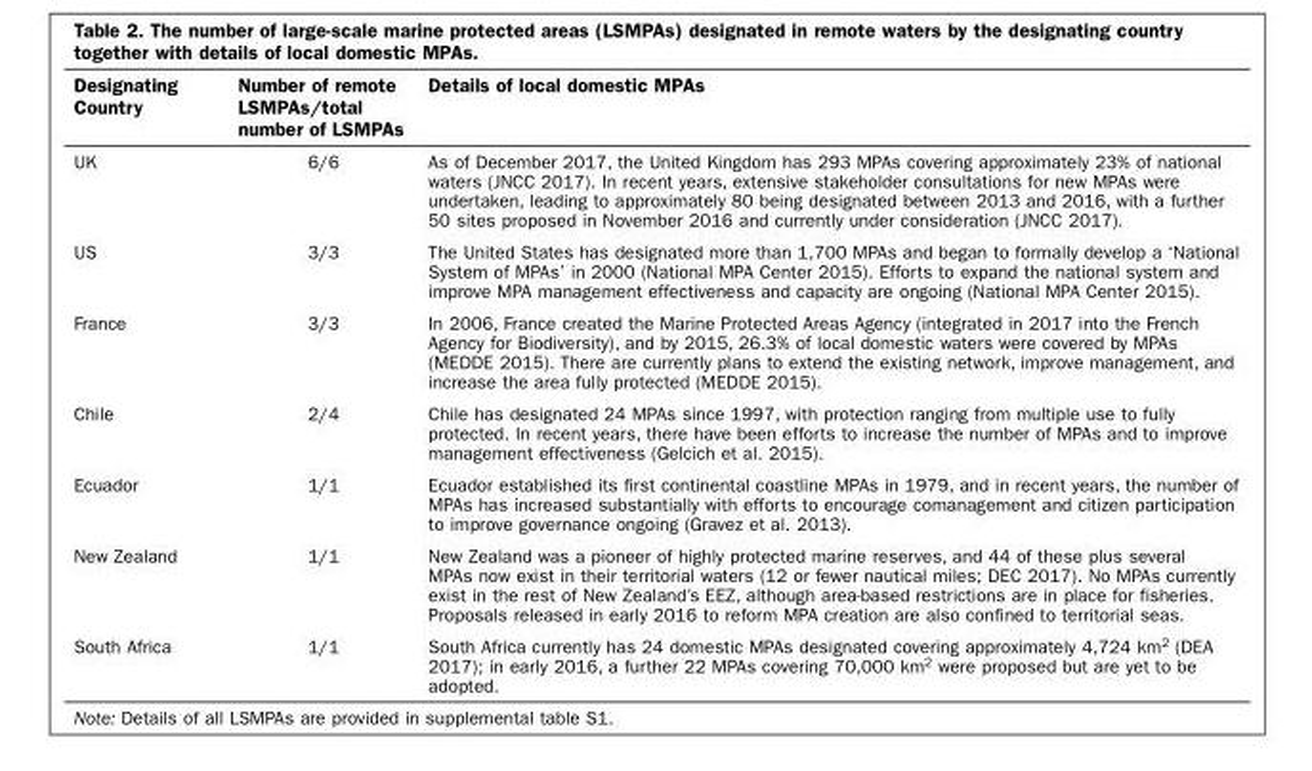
<table><thead><tr><td>Designating Country</td><td>Number of remote LSMPAs/total number of LSMPAs</td><td>Details of local domestic MPAs</td></tr></thead><tbody><tr><td>UK</td><td>6/6</td><td>As of December 2017, the United Kingdom has 293 MPAs covering approximately 23% of national waters (JNCC 2017). In recent years, extensive stakeholder consultations for new MPAs were undertaken, leading to approximately 80 being designated between 2013 and 2016, with a further 50 sites proposed in November 2016 and currently under consideration (JNCC 2017).</td></tr><tr><td>US</td><td>3/3</td><td>The United States has designated more than 1,700 MPAs and began to formally develop a ‘National System of MPAs’ in 2000 (National MPA Center 2015). Efforts to expand the national system and improve MPA management effectiveness and capacity are ongoing (National MPA Center 2015).</td></tr><tr><td>France</td><td>3/3</td><td>In 2006, France created the Marine Protected Areas Agency (integrated in 2017 into the French Agency for Biodiversity), and by 2015, 26.3% of local domestic waters were covered by MPAs (MEDDE 2015). There are currently plans to extend the existing network, improve management, and increase the area fully protected (MEDDE 2015).</td></tr><tr><td>Chile</td><td>2/4</td><td>Chile has designated 24 MPAs since 1997, with protection ranging from multiple use to fully protected. In recent years, there have been efforts to increase the number of MPAs and to improve management effectiveness (Gelcich et al. 2015).</td></tr><tr><td>Ecuador</td><td>1/1</td><td>Ecuador established its first continental coastline MPAs in 1979, and in recent years, the number of MPAs has increased substantially with efforts to encourage comanagement and citizen participation to improve governance ongoing (Gravez et al. 2013).</td></tr><tr><td>New Zealand</td><td>1/1</td><td>New Zealand was a pioneer of highly protected marine reserves, and 44 of these plus several MPAs now exist in their territorial waters (12 or fewer nautical miles; DEC 2017). No MPAs currently exist in the rest of New Zealand’s EEZ, although area-based restrictions are in place for fisheries. Proposals released in early 2016 to reform MPA creation are also confined to territorial seas.</td></tr><tr><td>South Africa</td><td>1/1</td><td>South Africa currently has 24 domestic MPAs designated covering approximately 4,724 km<sup>2</sup> (DEA 2017); in early 2016, a further 22 MPAs covering 70,000 km<sup>2</sup> were proposed but are yet to be adopted.</td></tr></tbody></table>